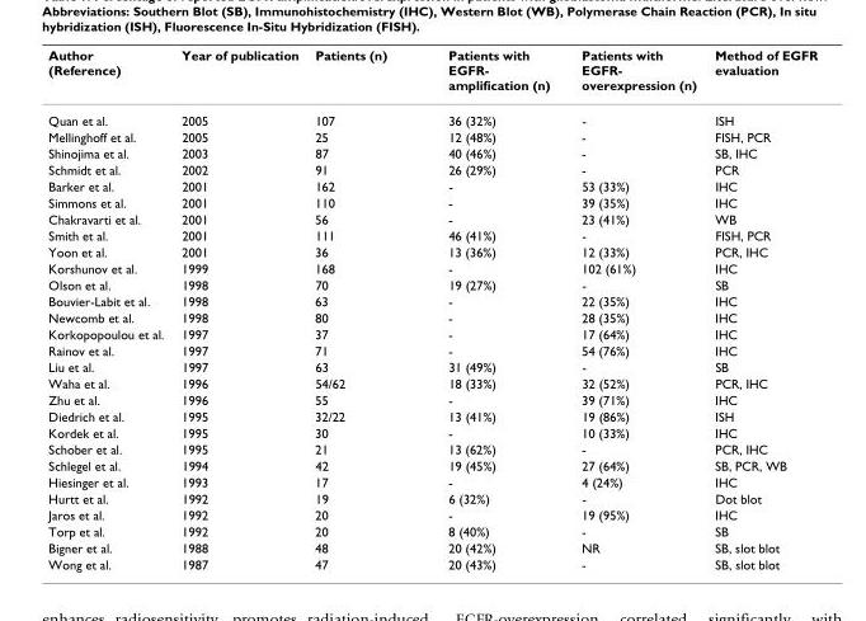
<table><thead><tr><td>Author (Reference)</td><td>Year of publication</td><td>Patients (n)</td><td>Patients with EGFR- amplification (n)</td><td>Patients with EGFR- overexpression (n)</td><td>Method of EGFR evaluation</td></tr></thead><tbody><tr><td>Quan et al.</td><td>2005</td><td>107</td><td>36 (32%)</td><td>-</td><td>ISH</td></tr><tr><td>Mellinghoff et al.</td><td>2005</td><td>25</td><td>12 (48%)</td><td>-</td><td>FISH, PCR</td></tr><tr><td>Shinojima et al.</td><td>2003</td><td>87</td><td>40 (46%)</td><td>-</td><td>SB, IHC</td></tr><tr><td>Schmidt et al.</td><td>2002</td><td>91</td><td>26 (29%)</td><td>-</td><td>PCR</td></tr><tr><td>Barker et al.</td><td>2001</td><td>162</td><td>-</td><td>53 (33%)</td><td>IHC</td></tr><tr><td>Simmons et al.</td><td>2001</td><td>110</td><td>-</td><td>39 (35%)</td><td>IHC</td></tr><tr><td>Chakravarti et al.</td><td>2001</td><td>56</td><td>-</td><td>23 (41%)</td><td>WB</td></tr><tr><td>Smith et al.</td><td>2001</td><td>111</td><td>46 (41%)</td><td>-</td><td>FISH, PCR</td></tr><tr><td>Yoon et al.</td><td>2001</td><td>36</td><td>13 (36%)</td><td>12 (33%)</td><td>PCR, IHC</td></tr><tr><td>Korshunov et al.</td><td>1999</td><td>168</td><td>-</td><td>102 (61%)</td><td>IHC</td></tr><tr><td>Olson et al.</td><td>1998</td><td>70</td><td>19 (27%)</td><td>-</td><td>SB</td></tr><tr><td>Bouvier-Labit et al.</td><td>1998</td><td>63</td><td>-</td><td>22 (35%)</td><td>IHC</td></tr><tr><td>Newcomb et al.</td><td>1998</td><td>80</td><td>-</td><td>28 (35%)</td><td>IHC</td></tr><tr><td>Korkopopoulou et al.</td><td>1997</td><td>37</td><td>-</td><td>17 (64%)</td><td>IHC</td></tr><tr><td>Rainov et al.</td><td>1997</td><td>71</td><td>-</td><td>54 (76%)</td><td>IHC</td></tr><tr><td>Liu et al.</td><td>1997</td><td>63</td><td>31 (49%)</td><td>-</td><td>SB</td></tr><tr><td>Waha et al.</td><td>1996</td><td>54/62</td><td>18 (33%)</td><td>32 (52%)</td><td>PCR, IHC</td></tr><tr><td>Zhu et al.</td><td>1996</td><td>55</td><td>-</td><td>39 (71%)</td><td>IHC</td></tr><tr><td>Diedrich et al.</td><td>1995</td><td>32/22</td><td>13 (41%)</td><td>19 (86%)</td><td>ISH</td></tr><tr><td>Kordek et al.</td><td>1995</td><td>30</td><td>-</td><td>10 (33%)</td><td>IHC</td></tr><tr><td>Schober et al.</td><td>1995</td><td>21</td><td>13 (62%)</td><td>-</td><td>PCR, IHC</td></tr><tr><td>Schlegel et al.</td><td>1994</td><td>42</td><td>19 (45%)</td><td>27 (64%)</td><td>SB, PCR, WB</td></tr><tr><td>Hiesinger et al.</td><td>1993</td><td>17</td><td>-</td><td>4 (24%)</td><td>IHC</td></tr><tr><td>Hurtt et al.</td><td>1992</td><td>19</td><td>6 (32%)</td><td>-</td><td>Dot blot</td></tr><tr><td>Jaros et al.</td><td>1992</td><td>20</td><td>-</td><td>19 (95%)</td><td>IHC</td></tr><tr><td>Torp et al.</td><td>1992</td><td>20</td><td>8 (40%)</td><td>-</td><td>SB</td></tr><tr><td>Bigner et al.</td><td>1988</td><td>48</td><td>20 (42%)</td><td>NR</td><td>SB, slot blot</td></tr><tr><td>Wong et al.</td><td>1987</td><td>47</td><td>20 (43%)</td><td>-</td><td>SB, slot blot</td></tr></tbody></table>